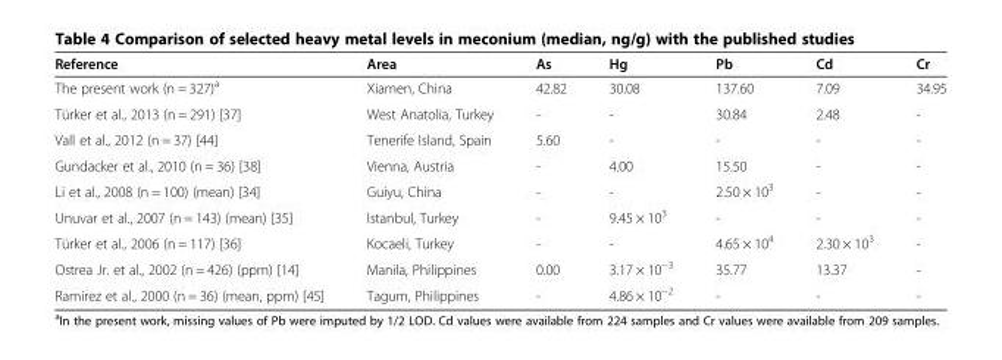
<table><thead><tr><td>Reference</td><td>Area</td><td>As</td><td>Hg</td><td>Pb</td><td>Cd</td><td>Cr</td></tr></thead><tbody><tr><td>The present work (n = 327)<sup>a</sup></td><td>Xiamen, China</td><td>42.82</td><td>30.08</td><td>137.60</td><td>7.09</td><td>34.95</td></tr><tr><td>Türker et al., 2013 (n = 291) [37]</td><td>West Anatolia, Turkey</td><td>-</td><td>-</td><td>30.84</td><td>2.48</td><td>-</td></tr><tr><td>Vall et al., 2012 (n = 37) [44]</td><td>Tenerife Island, Spain</td><td>5.60</td><td>-</td><td>-</td><td>-</td><td>-</td></tr><tr><td>Gundacker et al., 2010 (n = 36) [38]</td><td>Vienna, Austria</td><td>-</td><td>4.00</td><td>15.50</td><td>-</td><td>-</td></tr><tr><td>Li et al., 2008 (n = 100) (mean) [34]</td><td>Guiyu, China</td><td>-</td><td>-</td><td>2.50 × 10<sup>3</sup></td><td>-</td><td>-</td></tr><tr><td>Unuvar et al., 2007 (n = 143) (mean) [35]</td><td>Istanbul, Turkey</td><td>-</td><td>9.45 × 10<sup>3</sup></td><td>-</td><td>-</td><td>-</td></tr><tr><td>Türker et al., 2006 (n = 117) [36]</td><td>Kocaeli, Turkey</td><td>-</td><td>-</td><td>4.65 × 10<sup>4</sup></td><td>2.30 × 10<sup>3</sup></td><td>-</td></tr><tr><td>Ostrea Jr. et al., 2002 (n = 426) (ppm) [14]</td><td>Manila, Philippines</td><td>0.00</td><td>3.17 × 10<sup>−3</sup></td><td>35.77</td><td>13.37</td><td>-</td></tr><tr><td>Ramirez et al., 2000 (n = 36) (mean, ppm) [45]</td><td>Tagum, Philippines</td><td>-</td><td>4.86 × 10<sup>−2</sup></td><td>-</td><td>-</td><td>-</td></tr></tbody></table>